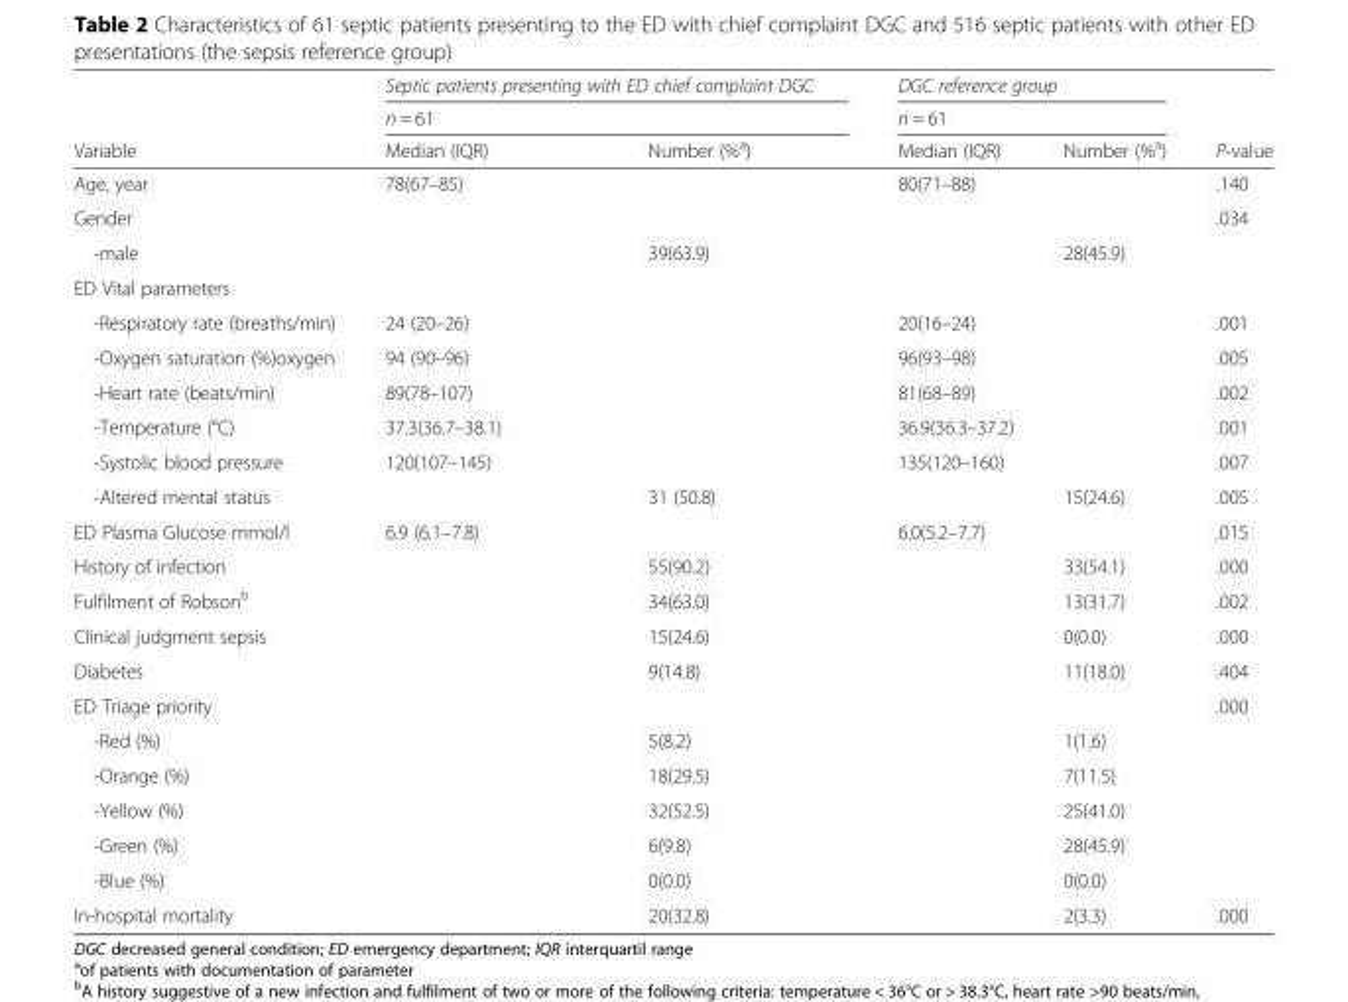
<table><thead><tr><td rowspan="3">Variable</td><td rowspan="2" colspan="2">Septic patients presenting with ED chief complaint DGC n = 61</td><td rowspan="2" colspan="2">DGC reference group n = 61</td><td rowspan="3">P-value</td></tr><tr></tr><tr><td>Median (IQR)</td><td>Number (%<sup>a</sup>)</td><td>Median (IQR)</td><td>Number (%<sup>a</sup>)</td></tr></thead><tbody><tr><td>Age, year</td><td>78(67–85)</td><td></td><td>80(71–88)</td><td></td><td>.140</td></tr><tr><td>Gender</td><td></td><td></td><td></td><td></td><td>.034</td></tr><tr><td>-male</td><td></td><td>39(63.9)</td><td></td><td>28(45.9)</td><td></td></tr><tr><td colspan="6">ED Vital parameters</td></tr><tr><td>-Respiratory rate (breaths/min)</td><td>24 (20–26)</td><td></td><td>20(16–24)</td><td></td><td>.001</td></tr><tr><td>-Oxygen saturation (%)oxygen</td><td>94 (90–96)</td><td></td><td>96(93–98)</td><td></td><td>.005</td></tr><tr><td>-Heart rate (beats/min)</td><td>89(78–107)</td><td></td><td>81(68–89)</td><td></td><td>.002</td></tr><tr><td>-Temperature (°C)</td><td>37.3(36.7–38.1)</td><td></td><td>36.9(36.3–37.2)</td><td></td><td>.001</td></tr><tr><td>-Systolic blood pressure</td><td>120(107–145)</td><td></td><td>135(120–160)</td><td></td><td>.007</td></tr><tr><td>-Altered mental status</td><td></td><td>31 (50.8)</td><td></td><td>15(24.6)</td><td>.005</td></tr><tr><td>ED Plasma Glucose mmol/l</td><td>6.9 (6.1–7.8)</td><td></td><td>6.0(5.2–7.7)</td><td></td><td>.015</td></tr><tr><td>History of infection</td><td></td><td>55(90.2)</td><td></td><td>33(54.1)</td><td>.000</td></tr><tr><td>Fulfilment of Robson<sup>b</sup></td><td></td><td>34(63.0)</td><td></td><td>13(31.7)</td><td>.002</td></tr><tr><td>Clinical judgment sepsis</td><td></td><td>15(24.6)</td><td></td><td>0(0.0)</td><td>.000</td></tr><tr><td>Diabetes</td><td></td><td>9(14.8)</td><td></td><td>11(18.0)</td><td>.404</td></tr><tr><td>ED Triage priority</td><td></td><td></td><td></td><td></td><td>.000</td></tr><tr><td>-Red (%)</td><td></td><td>5(8.2)</td><td></td><td>1(1.6)</td><td></td></tr><tr><td>-Orange (%)</td><td></td><td>18(29.5)</td><td></td><td>7(11.5)</td><td></td></tr><tr><td>-Yellow (%)</td><td></td><td>32(52.5)</td><td></td><td>25(41.0)</td><td></td></tr><tr><td>-Green (%)</td><td></td><td>6(9.8)</td><td></td><td>28(45.9)</td><td></td></tr><tr><td>-Blue (%)</td><td></td><td>0(0.0)</td><td></td><td>0(0.0)</td><td></td></tr><tr><td>In-hospital mortality</td><td></td><td>20(32.8)</td><td></td><td>2(3.3)</td><td>.000</td></tr></tbody></table>